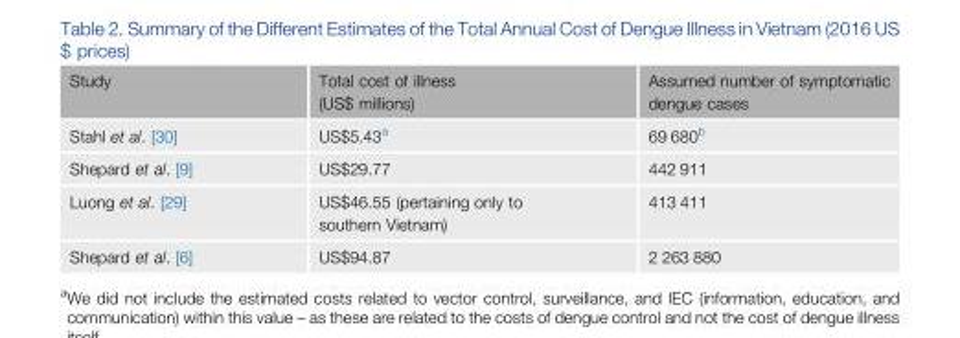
<table><thead><tr><td>Study</td><td>Total cost of illness (US$ millions)</td><td>Assumed number of symptomatic dengue cases</td></tr></thead><tbody><tr><td>Stahl et al. [30]</td><td>US$5.43<sup>a</sup></td><td>69 680<sup>b</sup></td></tr><tr><td>Shepard et al. [9]</td><td>US$29.77</td><td>442 911</td></tr><tr><td>Luong et al. [29]</td><td>US$46.55 (pertaining only to southern Vietnam)</td><td>413 411</td></tr><tr><td>Shepard et al. [6]</td><td>US$94.87</td><td>2 263 880</td></tr></tbody></table>